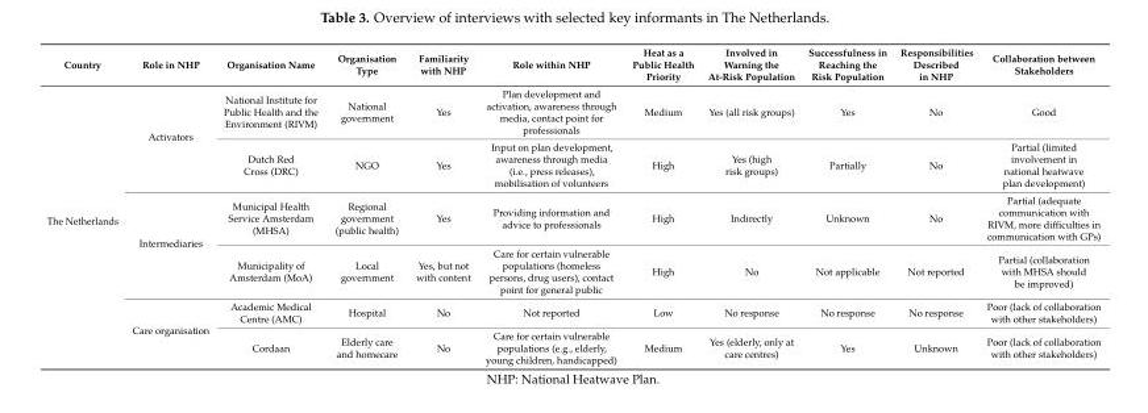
<table><thead><tr><td>Country</td><td>Role in NHP</td><td>Organisation Name</td><td>Organisation Type</td><td>Familiarity with NHP</td><td>Role within NHP</td><td>Heat as a Public Health Priority</td><td>Involved in Warning the At-Risk Population</td><td>Successfulness in Reaching the Risk Population</td><td>Responsibilities Described in NHP</td><td>Collaboration between Stakeholders</td></tr></thead><tbody><tr><td rowspan="6">The Netherlands</td><td rowspan="2">Activators</td><td>National Institute for Public Health and the Environment (RIVM)</td><td>National government</td><td>Yes</td><td>Plan development and activation, awareness through media, contact point for professionals</td><td>Medium</td><td>Yes (all risk groups)</td><td>Yes</td><td>No</td><td>Good</td></tr><tr><td>Dutch Red Cross (DRC)</td><td>NGO</td><td>Yes</td><td>Input on plan development, awareness through media (i.e., press releases), mobilisation of volunteers</td><td>High</td><td>Yes (high risk groups)</td><td>Partially</td><td>No</td><td>Partial (limited involvement in national heatwave plan development)</td></tr><tr><td rowspan="2">Intermediaries</td><td>Municipal Health Service Amsterdam (MHSA)</td><td>Regional government (public health)</td><td>Yes</td><td>Providing information and advice to professionals</td><td>High</td><td>Indirectly</td><td>Unknown</td><td>No</td><td>Partial (adequate communication with RIVM, more difficulties in communication with GPs)</td></tr><tr><td>Municipality of Amsterdam (MoA)</td><td>Local government</td><td>Yes, but not with content</td><td>Care for certain vulnerable populations (homeless persons, drug users), contact point for general public</td><td>High</td><td>No</td><td>Not applicable</td><td>Not reported</td><td>Partial (collaboration with MHSA should be improved)</td></tr><tr><td rowspan="2">Care organisation</td><td>Academic Medical Centre (AMC)</td><td>Hospital</td><td>No</td><td>Not reported</td><td>Low</td><td>No response</td><td>No response</td><td>No response</td><td>Poor (lack of collaboration with other stakeholders)</td></tr><tr><td>Cordaan</td><td>Elderly care and homecare</td><td>No</td><td>Care for certain vulnerable populations (e.g., elderly, young children, handicapped)</td><td>Medium</td><td>Yes (elderly, only at care centres)</td><td>Yes</td><td>Unknown</td><td>Poor (lack of collaboration with other stakeholders)</td></tr></tbody></table>